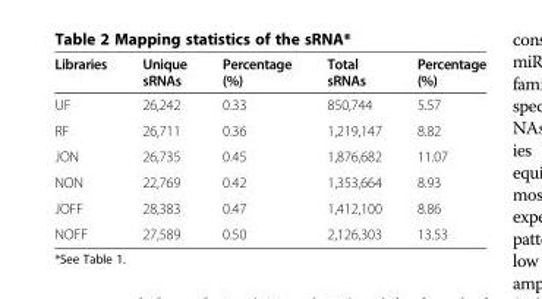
<table><thead><tr><td>Libraries</td><td>Unique sRNAs</td><td>Percentage (%)</td><td>Total sRNAs</td><td>Percentage (%)</td></tr></thead><tbody><tr><td>UF</td><td>26,242</td><td>0.33</td><td>850,744</td><td>5.57</td></tr><tr><td>RF</td><td>26,711</td><td>0.36</td><td>1,219,147</td><td>8.82</td></tr><tr><td>JON</td><td>26,735</td><td>0.45</td><td>1,876,682</td><td>11.07</td></tr><tr><td>NON</td><td>22,769</td><td>0.42</td><td>1,353,664</td><td>8.93</td></tr><tr><td>JOFF</td><td>28,383</td><td>0.47</td><td>1,412,100</td><td>8.86</td></tr><tr><td>NOFF</td><td>27,589</td><td>0.50</td><td>2,126,303</td><td>13.53</td></tr></tbody></table>